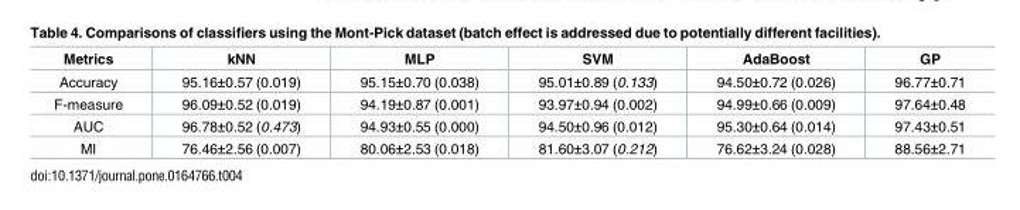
<table><thead><tr><td>Metrics</td><td>kNN</td><td>MLP</td><td>SVM</td><td>AdaBoost</td><td>GP</td></tr></thead><tbody><tr><td>Accuracy</td><td>95.16±0.57 (0.019)</td><td>95.15±0.70 (0.038)</td><td>95.01±0.89 (0.133)</td><td>94.50±0.72 (0.026)</td><td>96.77±0.71</td></tr><tr><td>F-measure</td><td>96.09±0.52 (0.019)</td><td>94.19±0.87 (0.001)</td><td>93.97±0.94 (0.002)</td><td>94.99±0.66 (0.009)</td><td>97.64±0.48</td></tr><tr><td>AUC</td><td>96.78±0.52 (0.473)</td><td>94.93±0.55 (0.000)</td><td>94.50±0.96 (0.012)</td><td>95.30±0.64 (0.014)</td><td>97.43±0.51</td></tr><tr><td>MI</td><td>76.46±2.56 (0.007)</td><td>80.06±2.53 (0.018)</td><td>81.60±3.07 (0.212)</td><td>76.62±3.24 (0.028)</td><td>88.56±2.71</td></tr></tbody></table>